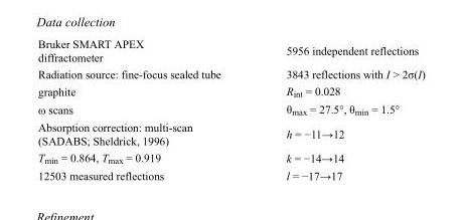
<table><tbody><tr><td>Bruker SMART APEX diffractometer</td><td>5956 independent reflections</td></tr><tr><td>Radiation source: fine-focus sealed tube</td><td>3843 reflections with I &gt; 2σ(I)</td></tr><tr><td>graphite</td><td>R<sub>int</sub> = 0.028</td></tr><tr><td>ω scans</td><td>θ<sub>max</sub> = 27.5°, θ<sub>min</sub> = 1.5°</td></tr><tr><td>Absorption correction: multi-scan (SADABS; Sheldrick, 1996)</td><td>h = −11→12</td></tr><tr><td>T<sub>min</sub> = 0.864, T<sub>max</sub> = 0.919</td><td>k = −14→14</td></tr><tr><td>12503 measured reflections</td><td>l = −17→17</td></tr></tbody></table>